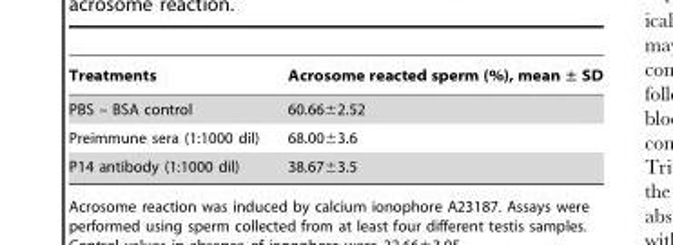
<table><thead><tr><td>Treatments</td><td>Acrosome reacted sperm (%), mean ± SD</td></tr></thead><tbody><tr><td>PBS – BSA control</td><td>60.66±2.52</td></tr><tr><td>Preimmune sera (1:1000 dil)</td><td>68.00±3.6</td></tr><tr><td>P14 antibody (1:1000 dil)</td><td>38.67±3.5</td></tr></tbody></table>